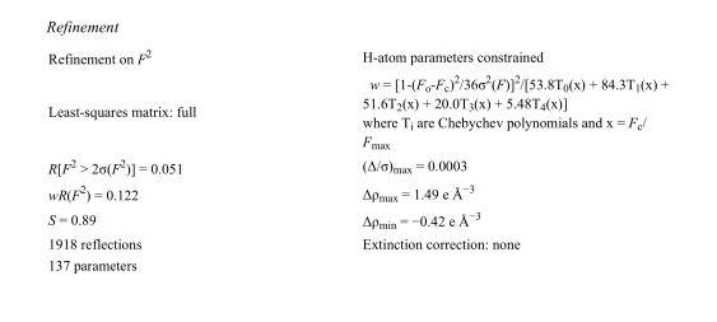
<table><tbody><tr><td>Refinement on F<sup>2</sup></td><td>H-atom parameters constrained</td></tr><tr><td>Least-squares matrix: full</td><td>w = [1-(F<sub>o</sub>-F<sub>c</sub>)<sup>2</sup>/36σ<sup>2</sup>(F)]<sup>2</sup>/[53.8T<sub>0</sub>(x) + 84.3T<sub>1</sub>(x) + 51.6T<sub>2</sub>(x) + 20.0T<sub>3</sub>(x) + 5.48T<sub>4</sub>(x)] where T<sub>i</sub> are Chebychev polynomials and x = F<sub>c</sub>/ F<sub>max</sub></td></tr><tr><td>R[F<sup>2</sup> &gt; 2σ(F<sup>2</sup>)] = 0.051</td><td>(Δ/σ)<sub>max</sub> = 0.0003</td></tr><tr><td>wR(F<sup>2</sup>) = 0.122</td><td>Δρ<sub>max</sub> = 1.49 e Å<sup>−3</sup></td></tr><tr><td>S = 0.89</td><td>Δρ<sub>min</sub> = −0.42 e Å<sup>−3</sup></td></tr><tr><td>1918 reflections</td><td>Extinction correction: none</td></tr><tr><td>137 parameters</td><td></td></tr></tbody></table>